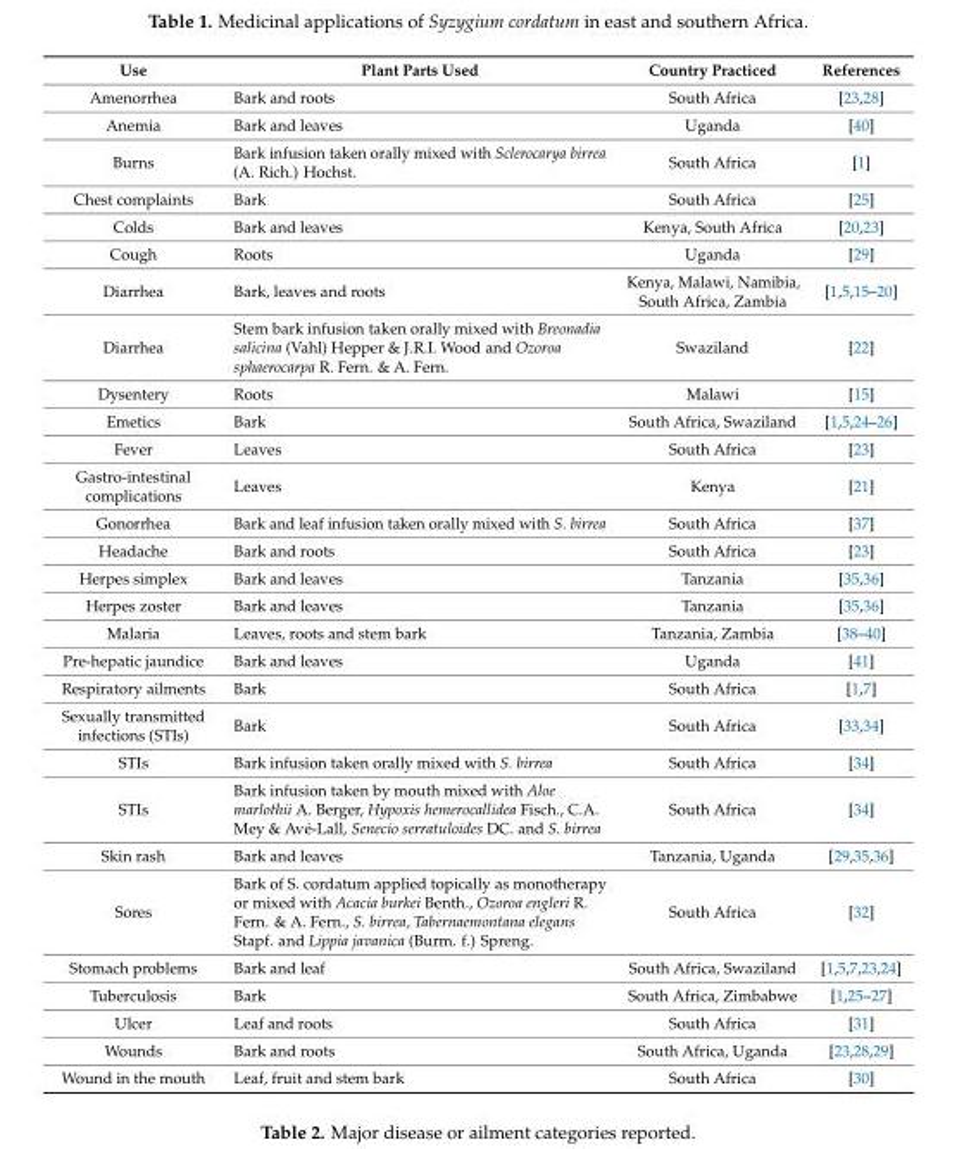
<table><thead><tr><td>Use</td><td>Plant Parts Used</td><td>Country Practiced</td><td>References</td></tr></thead><tbody><tr><td>Amenorrhea</td><td>Bark and roots</td><td>South Africa</td><td>[23,28]</td></tr><tr><td>Anemia</td><td>Bark and leaves</td><td>Uganda</td><td>[40]</td></tr><tr><td>Burns</td><td>Bark infusion taken orally mixed with Sclerocarya birrea (A. Rich.) Hochst.</td><td>South Africa</td><td>[1]</td></tr><tr><td>Chest complaints</td><td>Bark</td><td>South Africa</td><td>[25]</td></tr><tr><td>Colds</td><td>Bark and leaves</td><td>Kenya, South Africa</td><td>[20,23]</td></tr><tr><td>Cough</td><td>Roots</td><td>Uganda</td><td>[29]</td></tr><tr><td>Diarrhea</td><td>Bark, leaves and roots</td><td>Kenya, Malawi, Namibia, South Africa, Zambia</td><td>[1,5,15–20]</td></tr><tr><td>Diarrhea</td><td>Stem bark infusion taken orally mixed with Breonadia salicina (Vahl) Hepper &amp; J.R.I. Wood and Ozoroa sphaerocarpa R. Fern. &amp; A. Fern.</td><td>Swaziland</td><td>[22]</td></tr><tr><td>Dysentery</td><td>Roots</td><td>Malawi</td><td>[15]</td></tr><tr><td>Emetics</td><td>Bark</td><td>South Africa, Swaziland</td><td>[1,5,24–26]</td></tr><tr><td>Fever</td><td>Leaves</td><td>South Africa</td><td>[23]</td></tr><tr><td>Gastro-intestinal complications</td><td>Leaves</td><td>Kenya</td><td>[21]</td></tr><tr><td>Gonorrhea</td><td>Bark and leaf infusion taken orally mixed with S. birrea</td><td>South Africa</td><td>[37]</td></tr><tr><td>Headache</td><td>Bark and roots</td><td>South Africa</td><td>[23]</td></tr><tr><td>Herpes simplex</td><td>Bark and leaves</td><td>Tanzania</td><td>[35,36]</td></tr><tr><td>Herpes zoster</td><td>Bark and leaves</td><td>Tanzania</td><td>[35,36]</td></tr><tr><td>Malaria</td><td>Leaves, roots and stem bark</td><td>Tanzania, Zambia</td><td>[38–40]</td></tr><tr><td>Pre-hepatic jaundice</td><td>Bark and leaves</td><td>Uganda</td><td>[41]</td></tr><tr><td>Respiratory ailments</td><td>Bark</td><td>South Africa</td><td>[1,7]</td></tr><tr><td>Sexually transmitted infections (STIs)</td><td>Bark</td><td>South Africa</td><td>[33,34]</td></tr><tr><td>STIs</td><td>Bark infusion taken orally mixed with S. birrea</td><td>South Africa</td><td>[34]</td></tr><tr><td>STIs</td><td>Bark infusion taken by mouth mixed with Aloe marlothii A. Berger, Hypoxis hemerocallidea Fisch., C.A. Mey &amp; Avé-Lall, Senecio serratuloides DC. and S. birrea</td><td>South Africa</td><td>[34]</td></tr><tr><td>Skin rash</td><td>Bark and leaves</td><td>Tanzania, Uganda</td><td>[29,35,36]</td></tr><tr><td>Sores</td><td>Bark of S. cordatum applied topically as monotherapy or mixed with Acacia burkei Benth., Ozoroa engleri R. Fern. &amp; A. Fern., S. birrea, Tabernaemontana elegans Stapf. and Lippia javanica (Burm. f.) Spreng.</td><td>South Africa</td><td>[32]</td></tr><tr><td>Stomach problems</td><td>Bark and leaf</td><td>South Africa, Swaziland</td><td>[1,5,7,23,24]</td></tr><tr><td>Tuberculosis</td><td>Bark</td><td>South Africa, Zimbabwe</td><td>[1,25–27]</td></tr><tr><td>Ulcer</td><td>Leaf and roots</td><td>South Africa</td><td>[31]</td></tr><tr><td>Wounds</td><td>Bark and roots</td><td>South Africa, Uganda</td><td>[23,28,29]</td></tr><tr><td>Wound in the mouth</td><td>Leaf, fruit and stem bark</td><td>South Africa</td><td>[30]</td></tr></tbody></table>